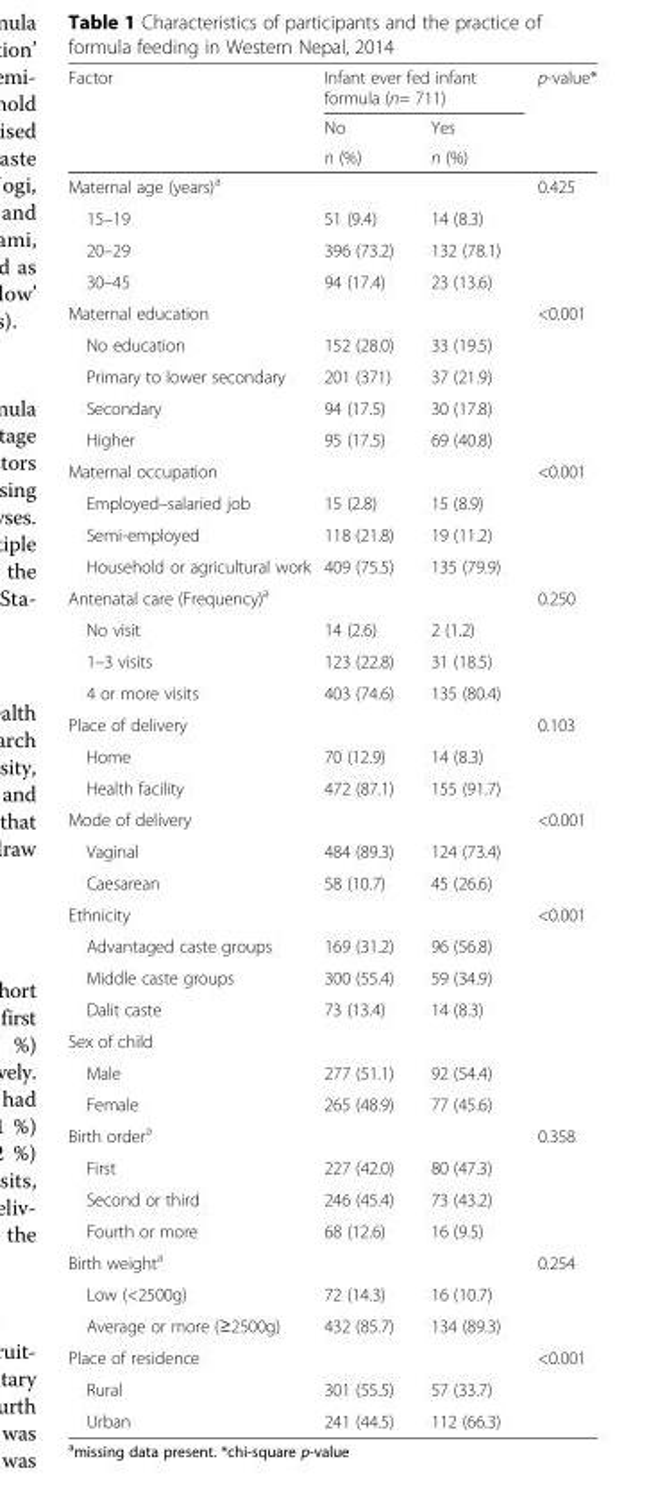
<table><thead><tr><td rowspan="3">Factor</td><td colspan="2">Infant ever fed infant formula (n= 711)</td><td rowspan="3">p-value*</td></tr><tr><td rowspan="2">No n (%)</td><td rowspan="2">Yes n (%)</td></tr><tr></tr></thead><tbody><tr><td>Maternal age (years)<sup>a</sup></td><td></td><td></td><td>0.425</td></tr><tr><td>15–19</td><td>51 (9.4)</td><td>14 (8.3)</td><td></td></tr><tr><td>20–29</td><td>396 (73.2)</td><td>132 (78.1)</td><td></td></tr><tr><td>30–45</td><td>94 (17.4)</td><td>23 (13.6)</td><td></td></tr><tr><td>Maternal education</td><td></td><td></td><td>&lt;0.001</td></tr><tr><td>No education</td><td>152 (28.0)</td><td>33 (19.5)</td><td></td></tr><tr><td>Primary to lower secondary</td><td>201 (371)</td><td>37 (21.9)</td><td></td></tr><tr><td>Secondary</td><td>94 (17.5)</td><td>30 (17.8)</td><td></td></tr><tr><td>Higher</td><td>95 (17.5)</td><td>69 (40.8)</td><td></td></tr><tr><td>Maternal occupation</td><td></td><td></td><td>&lt;0.001</td></tr><tr><td>Employed–salaried job</td><td>15 (2.8)</td><td>15 (8.9)</td><td></td></tr><tr><td>Semi-employed</td><td>118 (21.8)</td><td>19 (11.2)</td><td></td></tr><tr><td>Household or agricultural work</td><td>409 (75.5)</td><td>135 (79.9)</td><td></td></tr><tr><td>Antenatal care (Frequency)<sup>a</sup></td><td></td><td></td><td>0.250</td></tr><tr><td>No visit</td><td>14 (2.6)</td><td>2 (1.2)</td><td></td></tr><tr><td>1–3 visits</td><td>123 (22.8)</td><td>31 (18.5)</td><td></td></tr><tr><td>4 or more visits</td><td>403 (74.6)</td><td>135 (80.4)</td><td></td></tr><tr><td>Place of delivery</td><td></td><td></td><td>0.103</td></tr><tr><td>Home</td><td>70 (12.9)</td><td>14 (8.3)</td><td></td></tr><tr><td>Health facility</td><td>472 (87.1)</td><td>155 (91.7)</td><td></td></tr><tr><td>Mode of delivery</td><td></td><td></td><td>&lt;0.001</td></tr><tr><td>Vaginal</td><td>484 (89.3)</td><td>124 (73.4)</td><td></td></tr><tr><td>Caesarean</td><td>58 (10.7)</td><td>45 (26.6)</td><td></td></tr><tr><td>Ethnicity</td><td></td><td></td><td>&lt;0.001</td></tr><tr><td>Advantaged caste groups</td><td>169 (31.2)</td><td>96 (56.8)</td><td></td></tr><tr><td>Middle caste groups</td><td>300 (55.4)</td><td>59 (34.9)</td><td></td></tr><tr><td>Dalit caste</td><td>73 (13.4)</td><td>14 (8.3)</td><td></td></tr><tr><td colspan="4">Sex of child</td></tr><tr><td>Male</td><td>277 (51.1)</td><td>92 (54.4)</td><td></td></tr><tr><td>Female</td><td>265 (48.9)</td><td>77 (45.6)</td><td></td></tr><tr><td>Birth order<sup>a</sup></td><td></td><td></td><td>0.358</td></tr><tr><td>First</td><td>227 (42.0)</td><td>80 (47.3)</td><td></td></tr><tr><td>Second or third</td><td>246 (45.4)</td><td>73 (43.2)</td><td></td></tr><tr><td>Fourth or more</td><td>68 (12.6)</td><td>16 (9.5)</td><td></td></tr><tr><td>Birth weight<sup>a</sup></td><td></td><td></td><td>0.254</td></tr><tr><td>Low (&lt;2500g)</td><td>72 (14.3)</td><td>16 (10.7)</td><td></td></tr><tr><td>Average or more (≥2500g)</td><td>432 (85.7)</td><td>134 (89.3)</td><td></td></tr><tr><td>Place of residence</td><td></td><td></td><td>&lt;0.001</td></tr><tr><td>Rural</td><td>301 (55.5)</td><td>57 (33.7)</td><td></td></tr><tr><td>Urban</td><td>241 (44.5)</td><td>112 (66.3)</td><td></td></tr></tbody></table>